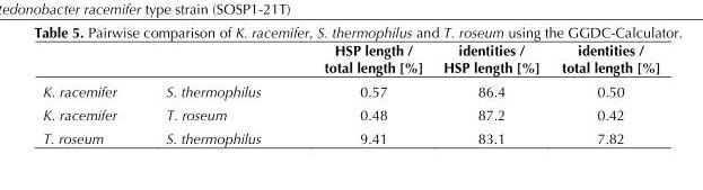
<table><thead><tr><td></td><td></td><td>HSP length / total length [%]</td><td>identities / HSP length [%]</td><td>identities / total length [%]</td></tr></thead><tbody><tr><td>K. racemifer</td><td>S. thermophilus</td><td>0.57</td><td>86.4</td><td>0.50</td></tr><tr><td>K. racemifer</td><td>T. roseum</td><td>0.48</td><td>87.2</td><td>0.42</td></tr><tr><td>T. roseum</td><td>S. thermophilus</td><td>9.41</td><td>83.1</td><td>7.82</td></tr></tbody></table>